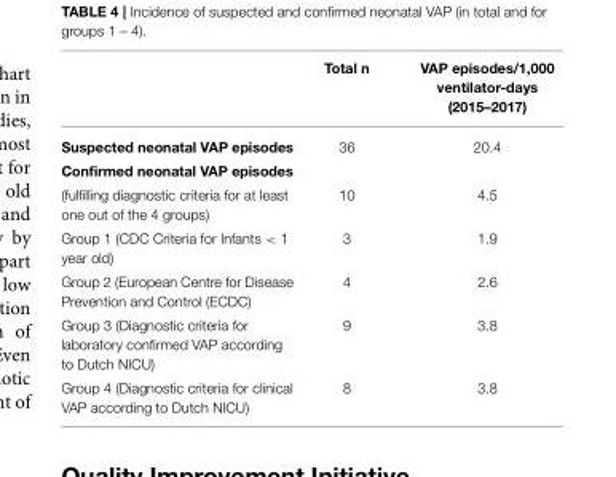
<table><thead><tr><td></td><td>Total n</td><td>VAP episodes/1,000 ventilator-days (2015–2017)</td></tr></thead><tbody><tr><td>Suspected neonatal VAP episodes</td><td>36</td><td>20.4</td></tr><tr><td colspan="3">Confirmed neonatal VAP episodes</td></tr><tr><td>(fulfilling diagnostic criteria for at least one out of the 4 groups)</td><td>10</td><td>4.5</td></tr><tr><td>Group 1 (CDC Criteria for Infants &lt; 1 year old)</td><td>3</td><td>1.9</td></tr><tr><td>Group 2 (European Centre for Disease Prevention and Control (ECDC)</td><td>4</td><td>2.6</td></tr><tr><td>Group 3 (Diagnostic criteria for laboratory confirmed VAP according to Dutch NICU)</td><td>9</td><td>3.8</td></tr><tr><td>Group 4 (Diagnostic criteria for clinical VAP according to Dutch NICU)</td><td>8</td><td>3.8</td></tr></tbody></table>